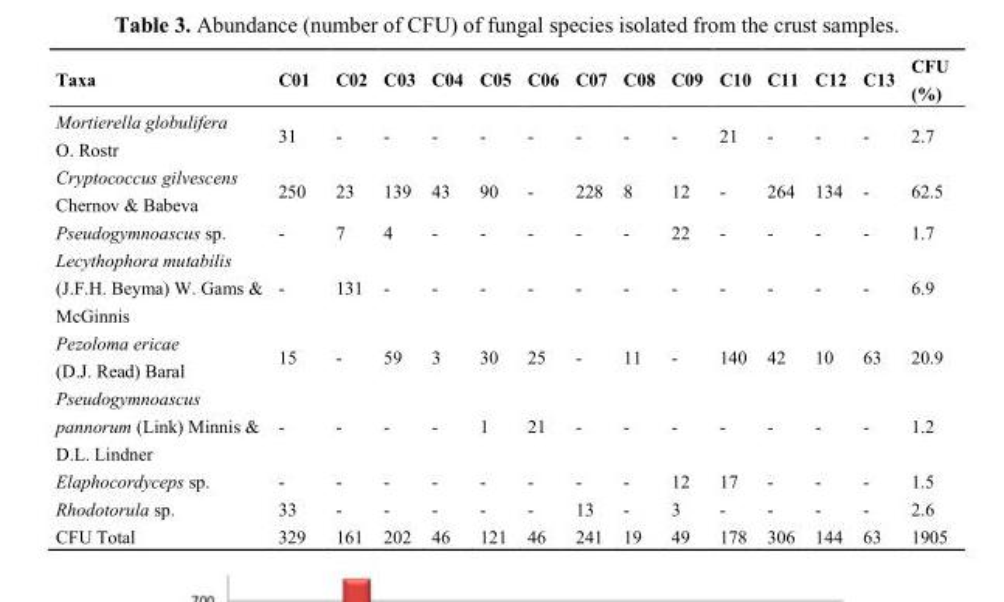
<table><thead><tr><td>Taxa</td><td>C01</td><td>C02</td><td>C03</td><td>C04</td><td>C05</td><td>C06</td><td>C07</td><td>C08</td><td>C09</td><td>C10</td><td>C11</td><td>C12</td><td>C13</td><td>CFU (%)</td></tr></thead><tbody><tr><td>Mortierella globulifera O. Rostr</td><td>31</td><td>-</td><td>-</td><td>-</td><td>-</td><td>-</td><td>-</td><td>-</td><td>-</td><td>21</td><td>-</td><td>-</td><td>-</td><td>2.7</td></tr><tr><td>Cryptococcus gilvescens Chernov &amp; Babeva</td><td>250</td><td>23</td><td>139</td><td>43</td><td>90</td><td>-</td><td>228</td><td>8</td><td>12</td><td>-</td><td>264</td><td>134</td><td>-</td><td>62.5</td></tr><tr><td>Pseudogymnoascus sp.</td><td>-</td><td>7</td><td>4</td><td>-</td><td>-</td><td>-</td><td>-</td><td>-</td><td>22</td><td>-</td><td>-</td><td>-</td><td>-</td><td>1.7</td></tr><tr><td>Lecythophora mutabilis (J.F.H. Beyma) W. Gams &amp; McGinnis</td><td>-</td><td>131</td><td>-</td><td>-</td><td>-</td><td>-</td><td>-</td><td>-</td><td>-</td><td>-</td><td>-</td><td>-</td><td>-</td><td>6.9</td></tr><tr><td>Pezoloma ericae (D.J. Read) Baral</td><td>15</td><td>-</td><td>59</td><td>3</td><td>30</td><td>25</td><td>-</td><td>11</td><td>-</td><td>140</td><td>42</td><td>10</td><td>63</td><td>20.9</td></tr><tr><td>Pseudogymnoascus pannorum (Link) Minnis &amp; D.L. Lindner</td><td>-</td><td>-</td><td>-</td><td>-</td><td>1</td><td>21</td><td>-</td><td>-</td><td>-</td><td>-</td><td>-</td><td>-</td><td>-</td><td>1.2</td></tr><tr><td>Elaphocordyceps sp.</td><td>-</td><td>-</td><td>-</td><td>-</td><td>-</td><td>-</td><td>-</td><td>-</td><td>12</td><td>17</td><td>-</td><td>-</td><td>-</td><td>1.5</td></tr><tr><td>Rhodotorula sp.</td><td>33</td><td>-</td><td>-</td><td>-</td><td>-</td><td>-</td><td>13</td><td>-</td><td>3</td><td>-</td><td>-</td><td>-</td><td>-</td><td>2.6</td></tr><tr><td>CFU Total</td><td>329</td><td>161</td><td>202</td><td>46</td><td>121</td><td>46</td><td>241</td><td>19</td><td>49</td><td>178</td><td>306</td><td>144</td><td>63</td><td>1905</td></tr></tbody></table>